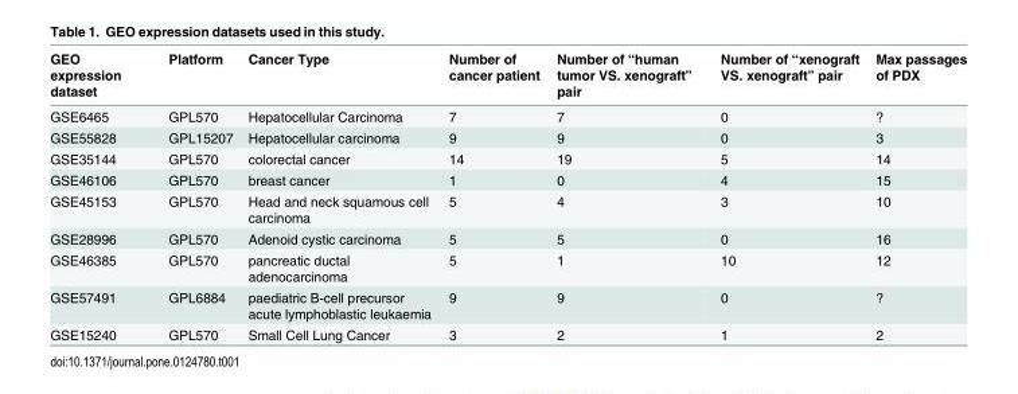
<table><thead><tr><td>GEO expression dataset</td><td>Platform</td><td>Cancer Type</td><td>Number of cancer patient</td><td>Number of “human tumor VS. xenograft” pair</td><td>Number of “xenograft VS. xenograft” pair</td><td>Max passages of PDX</td></tr></thead><tbody><tr><td>GSE6465</td><td>GPL570</td><td>Hepatocellular Carcinoma</td><td>7</td><td>7</td><td>0</td><td>?</td></tr><tr><td>GSE55828</td><td>GPL15207</td><td>Hepatocellular carcinoma</td><td>9</td><td>9</td><td>0</td><td>3</td></tr><tr><td>GSE35144</td><td>GPL570</td><td>colorectal cancer</td><td>14</td><td>19</td><td>5</td><td>14</td></tr><tr><td>GSE46106</td><td>GPL570</td><td>breast cancer</td><td>1</td><td>0</td><td>4</td><td>15</td></tr><tr><td>GSE45153</td><td>GPL570</td><td>Head and neck squamous cell carcinoma</td><td>5</td><td>4</td><td>3</td><td>10</td></tr><tr><td>GSE28996</td><td>GPL570</td><td>Adenoid cystic carcinoma</td><td>5</td><td>5</td><td>0</td><td>16</td></tr><tr><td>GSE46385</td><td>GPL570</td><td>pancreatic ductal adenocarcinoma</td><td>5</td><td>1</td><td>10</td><td>12</td></tr><tr><td>GSE57491</td><td>GPL6884</td><td>paediatric B-cell precursor acute lymphoblastic leukaemia</td><td>9</td><td>9</td><td>0</td><td>?</td></tr><tr><td>GSE15240</td><td>GPL570</td><td>Small Cell Lung Cancer</td><td>3</td><td>2</td><td>1</td><td>2</td></tr></tbody></table>